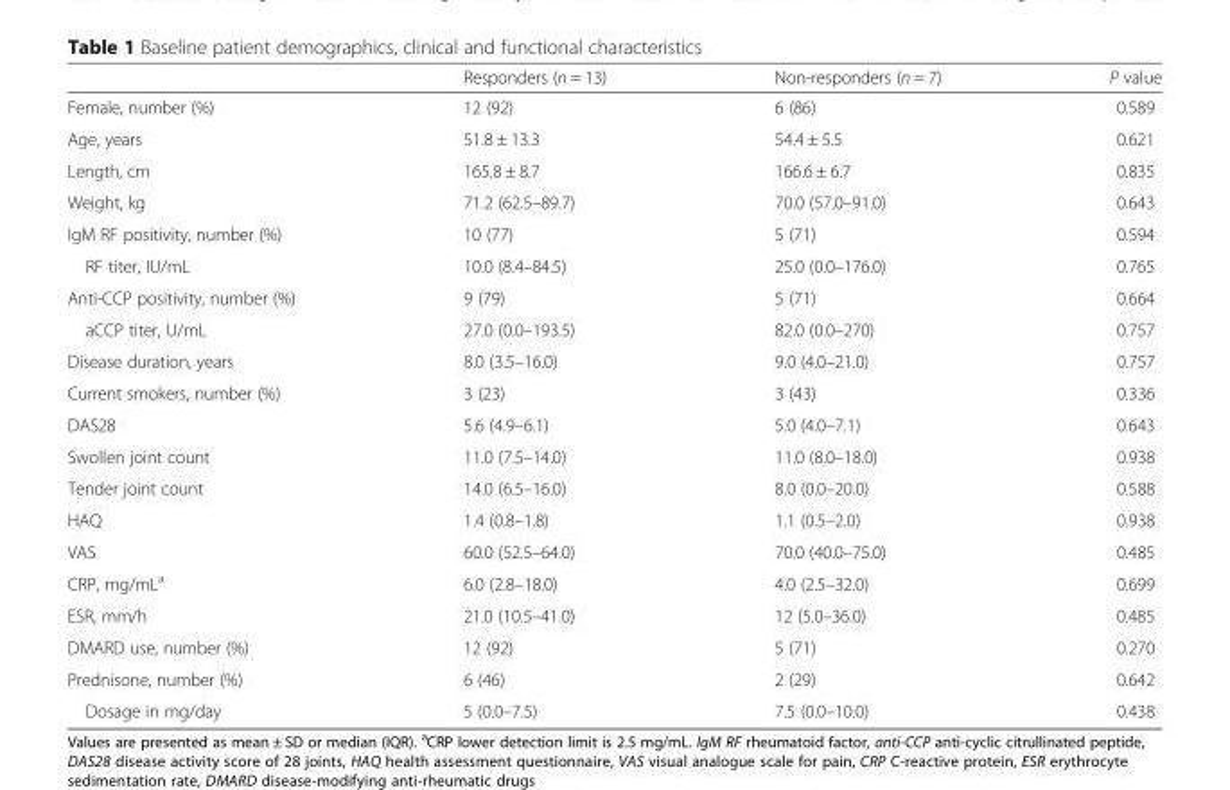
<table><thead><tr><td></td><td>Responders (n = 13)</td><td>Non-responders (n = 7)</td><td>P value</td></tr></thead><tbody><tr><td>Female, number (%)</td><td>12 (92)</td><td>6 (86)</td><td>0.589</td></tr><tr><td>Age, years</td><td>51.8 ± 13.3</td><td>54.4 ± 5.5</td><td>0.621</td></tr><tr><td>Length, cm</td><td>165.8 ± 8.7</td><td>166.6 ± 6.7</td><td>0.835</td></tr><tr><td>Weight, kg</td><td>71.2 (62.5–89.7)</td><td>70.0 (57.0–91.0)</td><td>0.643</td></tr><tr><td>IgM RF positivity, number (%)</td><td>10 (77)</td><td>5 (71)</td><td>0.594</td></tr><tr><td>RF titer, IU/mL</td><td>10.0 (8.4–84.5)</td><td>25.0 (0.0–176.0)</td><td>0.765</td></tr><tr><td>Anti-CCP positivity, number (%)</td><td>9 (79)</td><td>5 (71)</td><td>0.664</td></tr><tr><td>aCCP titer, U/mL</td><td>27.0 (0.0–193.5)</td><td>82.0 (0.0–270)</td><td>0.757</td></tr><tr><td>Disease duration, years</td><td>8.0 (3.5–16.0)</td><td>9.0 (4.0–21.0)</td><td>0.757</td></tr><tr><td>Current smokers, number (%)</td><td>3 (23)</td><td>3 (43)</td><td>0.336</td></tr><tr><td>DAS28</td><td>5.6 (4.9–6.1)</td><td>5.0 (4.0–7.1)</td><td>0.643</td></tr><tr><td>Swollen joint count</td><td>11.0 (7.5–14.0)</td><td>11.0 (8.0–18.0)</td><td>0.938</td></tr><tr><td>Tender joint count</td><td>14.0 (6.5–16.0)</td><td>8.0 (0.0–20.0)</td><td>0.588</td></tr><tr><td>HAQ</td><td>1.4 (0.8–1.8)</td><td>1.1 (0.5–2.0)</td><td>0.938</td></tr><tr><td>VAS</td><td>60.0 (52.5–64.0)</td><td>70.0 (40.0–75.0)</td><td>0.485</td></tr><tr><td>CRP, mg/mL<sup>a</sup></td><td>6.0 (2.8–18.0)</td><td>4.0 (2.5–32.0)</td><td>0.699</td></tr><tr><td>ESR, mm/h</td><td>21.0 (10.5–41.0)</td><td>12 (5.0–36.0)</td><td>0.485</td></tr><tr><td>DMARD use, number (%)</td><td>12 (92)</td><td>5 (71)</td><td>0.270</td></tr><tr><td>Prednisone, number (%)</td><td>6 (46)</td><td>2 (29)</td><td>0.642</td></tr><tr><td>Dosage in mg/day</td><td>5 (0.0–7.5)</td><td>7.5 (0.0–10.0)</td><td>0.438</td></tr></tbody></table>